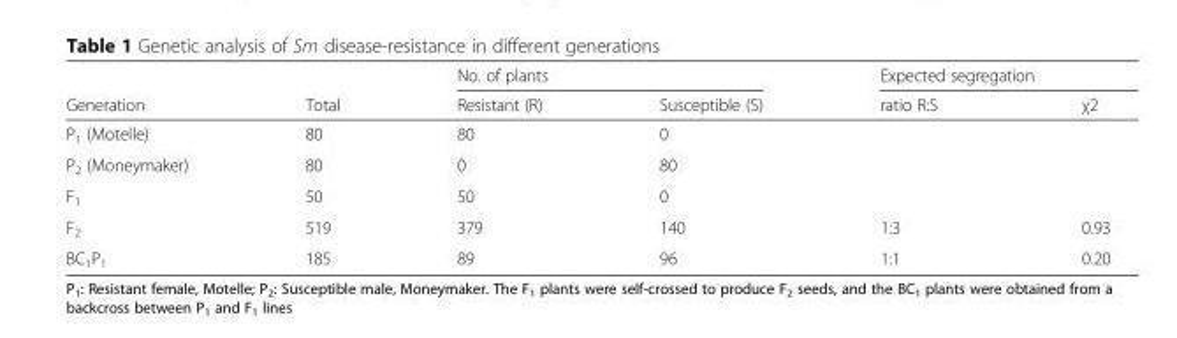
<table><thead><tr><td rowspan="2">Generation</td><td rowspan="2">Total</td><td colspan="2">No. of plants</td><td colspan="2">Expected segregation</td></tr><tr><td>Resistant (R)</td><td>Susceptible (S)</td><td>ratio R:S</td><td>χ2</td></tr></thead><tbody><tr><td>P<sub>1</sub> (Motelle)</td><td>80</td><td>80</td><td>0</td><td></td><td></td></tr><tr><td>P<sub>2</sub> (Moneymaker)</td><td>80</td><td>0</td><td>80</td><td></td><td></td></tr><tr><td>F<sub>1</sub></td><td>50</td><td>50</td><td>0</td><td></td><td></td></tr><tr><td>F<sub>2</sub></td><td>519</td><td>379</td><td>140</td><td>1:3</td><td>0.93</td></tr><tr><td>BC<sub>1</sub>P<sub>1</sub></td><td>185</td><td>89</td><td>96</td><td>1:1</td><td>0.20</td></tr></tbody></table>